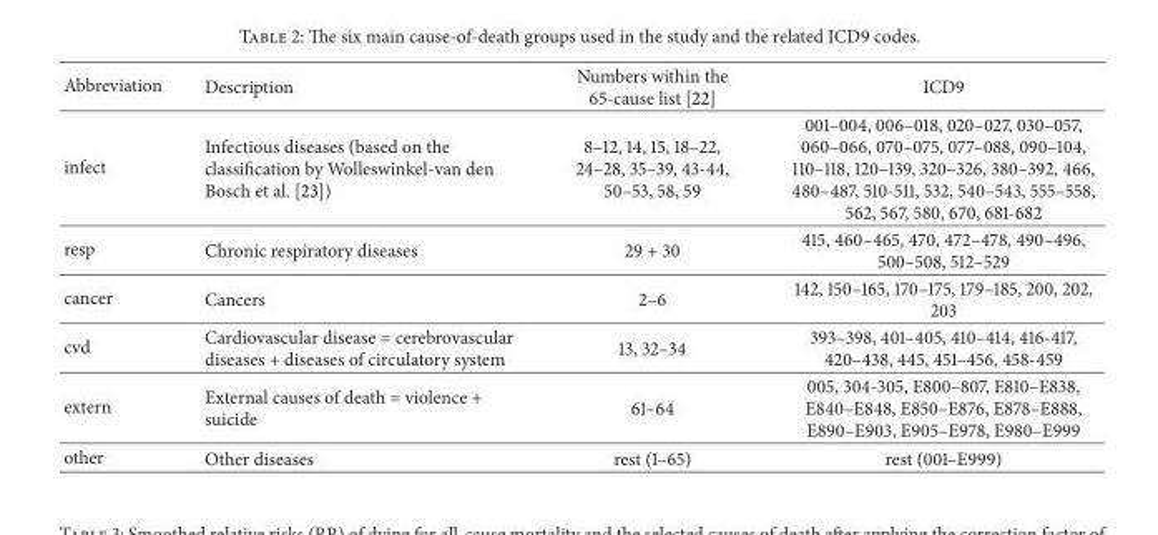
<table><thead><tr><td>Abbreviation</td><td>Description</td><td>Numbers within the 65-cause list [22]</td><td>ICD9</td></tr></thead><tbody><tr><td>infect</td><td>Infectious diseases (based on the classification by Wolleswinkel-van den Bosch et al. [23])</td><td>8–12, 14, 15, 18–22, 24–28, 35–39, 43-44, 50–53, 58, 59</td><td>001–004, 006–018, 020–027, 030–057, 060–066, 070–075, 077–088, 090–104, 110–118, 120–139, 320–326, 380–392, 466, 480–487, 510-511, 532, 540–543, 555–558, 562, 567, 580, 670, 681-682</td></tr><tr><td>resp</td><td>Chronic respiratory diseases</td><td>29 + 30</td><td>415, 460–465, 470, 472–478, 490–496, 500–508, 512–529</td></tr><tr><td>cancer</td><td>Cancers</td><td>2–6</td><td>142, 150–165, 170–175, 179–185, 200, 202, 203</td></tr><tr><td>cvd</td><td>Cardiovascular disease = cerebrovascular diseases + diseases of circulatory system</td><td>13, 32–34</td><td>393–398, 401–405, 410–414, 416-417, 420–438, 445, 451–456, 458-459</td></tr><tr><td>extern</td><td>External causes of death = violence + suicide</td><td>61–64</td><td>005, 304-305, E800–807, E810–E838, E840–E848, E850–E876, E878–E888, E890–E903, E905–E978, E980–E999</td></tr><tr><td>other</td><td>Other diseases</td><td>rest (1–65)</td><td>rest (001–E999)</td></tr></tbody></table>